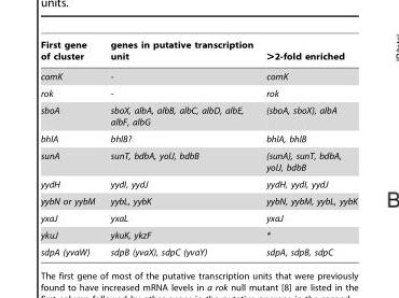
<table><thead><tr><td>First gene of cluster</td><td>genes in putative transcription unit</td><td>&gt;2-fold enriched</td></tr></thead><tbody><tr><td>comK</td><td>-</td><td>comK</td></tr><tr><td>rok</td><td>-</td><td>rok</td></tr><tr><td>sboA</td><td>sboX, albA, albB, albC, albD, albE, albF, albG</td><td>{sboA, sboX}, albA</td></tr><tr><td>bhlA</td><td>bhlB?</td><td>bhlA, bhlB</td></tr><tr><td>sunA</td><td>sunT, bdbA, yolJ, bdbB</td><td>{sunA}, sunT, bdbA, yolJ, bdbB</td></tr><tr><td>yydH</td><td>yydI, yydJ</td><td>yydH, yydI, yydJ</td></tr><tr><td>yybN or yybM</td><td>yybL, yybK</td><td>yybN, yybM, yybL, yybK</td></tr><tr><td>yxaJ</td><td>yxaL</td><td>yxaJ</td></tr><tr><td>ykuJ</td><td>ykuK, ykzF</td><td>*</td></tr><tr><td>sdpA (yvaW)</td><td>sdpB (yvaX), sdpC (yvaY)</td><td>sdpA, sdpB, sdpC</td></tr></tbody></table>